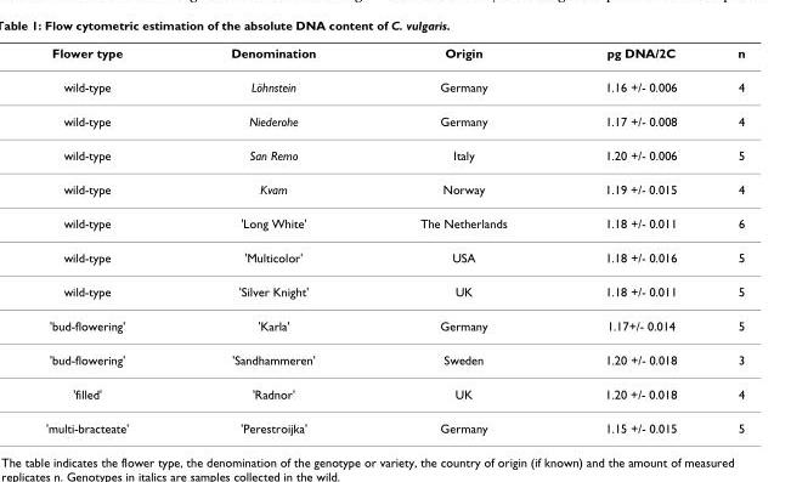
<table><thead><tr><td>Flower type</td><td>Denomination</td><td>Origin</td><td>pg DNA/2C</td><td>n</td></tr></thead><tbody><tr><td>wild-type</td><td>Löhnstein</td><td>Germany</td><td>1.16 +/- 0.006</td><td>4</td></tr><tr><td>wild-type</td><td>Niederohe</td><td>Germany</td><td>1.17 +/- 0.008</td><td>4</td></tr><tr><td>wild-type</td><td>San Remo</td><td>Italy</td><td>1.20 +/- 0.006</td><td>5</td></tr><tr><td>wild-type</td><td>Kvam</td><td>Norway</td><td>1.19 +/- 0.015</td><td>4</td></tr><tr><td>wild-type</td><td>&#x27;Long White&#x27;</td><td>The Netherlands</td><td>1.18 +/- 0.011</td><td>6</td></tr><tr><td>wild-type</td><td>&#x27;Multicolor&#x27;</td><td>USA</td><td>1.18 +/- 0.016</td><td>5</td></tr><tr><td>wild-type</td><td>&#x27;Silver Knight&#x27;</td><td>UK</td><td>1.18 +/- 0.011</td><td>5</td></tr><tr><td>&#x27;bud-flowering&#x27;</td><td>&#x27;Karla&#x27;</td><td>Germany</td><td>1.17+/- 0.014</td><td>5</td></tr><tr><td>&#x27;bud-flowering&#x27;</td><td>&#x27;Sandhammeren&#x27;</td><td>Sweden</td><td>1.20 +/- 0.018</td><td>3</td></tr><tr><td>&#x27;filled&#x27;</td><td>&#x27;Radnor&#x27;</td><td>UK</td><td>1.20 +/- 0.018</td><td>4</td></tr><tr><td>&#x27;multi-bracteate&#x27;</td><td>&#x27;Perestroijka&#x27;</td><td>Germany</td><td>1.15 +/- 0.015</td><td>5</td></tr></tbody></table>